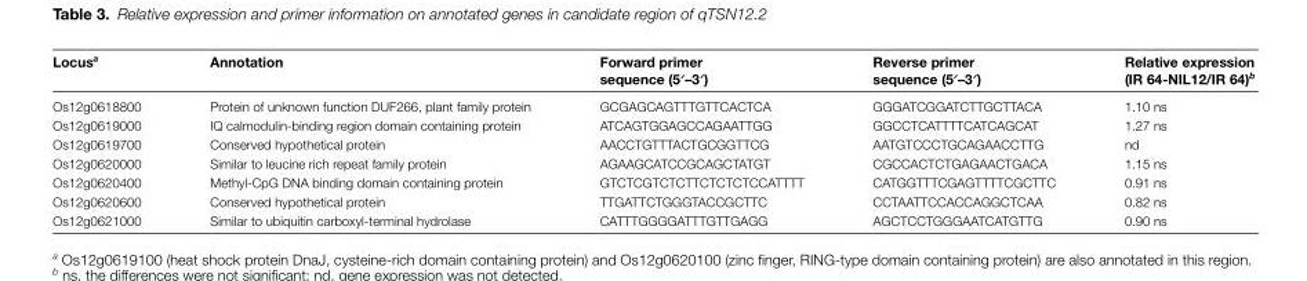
<table><thead><tr><td>Locus<sup>a</sup></td><td>Annotation</td><td>Forward primer sequence (5′–3′)</td><td>Reverse primer sequence (5′–3′)</td><td>Relative expression (IR 64-NIL12/IR 64)<sup>b</sup></td></tr></thead><tbody><tr><td>Os12g0618800</td><td>Protein of unknown function DUF266, plant family protein</td><td>GCGAGCAGTTTGTTCACTCA</td><td>GGGATCGGATCTTGCTTACA</td><td>1.10 ns</td></tr><tr><td>Os12g0619000</td><td>IQ calmodulin-binding region domain containing protein</td><td>ATCAGTGGAGCCAGAATTGG</td><td>GGCCTCATTTTCATCAGCAT</td><td>1.27 ns</td></tr><tr><td>Os12g0619700</td><td>Conserved hypothetical protein</td><td>AACCTGTTTACTGCGGTTCG</td><td>AATGTCCCTGCAGAACCTTG</td><td>nd</td></tr><tr><td>Os12g0620000</td><td>Similar to leucine rich repeat family protein</td><td>AGAAGCATCCGCAGCTATGT</td><td>CGCCACTCTGAGAACTGACA</td><td>1.15 ns</td></tr><tr><td>Os12g0620400</td><td>Methyl-CpG DNA binding domain containing protein</td><td>GTCTCGTCTCTTCTCTCTCCATTTT</td><td>CATGGTTTCGAGTTTTCGCTTC</td><td>0.91 ns</td></tr><tr><td>Os12g0620600</td><td>Conserved hypothetical protein</td><td>TTGATTCTGGGTACCGCTTC</td><td>CCTAATTCCACCAGGCTCAA</td><td>0.82 ns</td></tr><tr><td>Os12g0621000</td><td>Similar to ubiquitin carboxyl-terminal hydrolase</td><td>CATTTGGGGATTTGTTGAGG</td><td>AGCTCCTGGGAATCATGTTG</td><td>0.90 ns</td></tr></tbody></table>